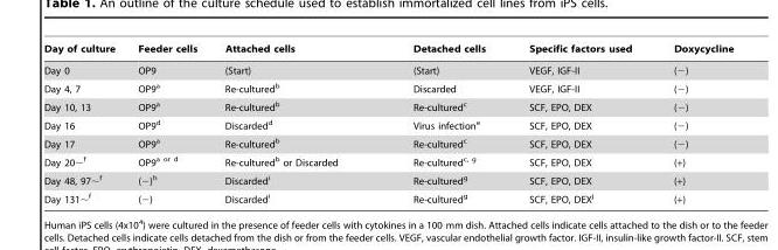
<table><thead><tr><td>Day of culture</td><td>Feeder cells</td><td>Attached cells</td><td>Detached cells</td><td>Specific factors used</td><td>Doxycycline</td></tr></thead><tbody><tr><td>Day 0</td><td>OP9</td><td>(Start)</td><td>(Start)</td><td>VEGF, IGF-II</td><td>(−)</td></tr><tr><td>Day 4, 7</td><td>OP9<sup>a</sup></td><td>Re-cultured<sup>b</sup></td><td>Discarded</td><td>VEGF, IGF-II</td><td>(−)</td></tr><tr><td>Day 10, 13</td><td>OP9<sup>a</sup></td><td>Re-cultured<sup>b</sup></td><td>Re-cultured<sup>c</sup></td><td>SCF, EPO, DEX</td><td>(−)</td></tr><tr><td>Day 16</td><td>OP9<sup>d</sup></td><td>Discarded<sup>d</sup></td><td>Virus infection<sup>e</sup></td><td>SCF, EPO, DEX</td><td>(−)</td></tr><tr><td>Day 17</td><td>OP9<sup>a</sup></td><td>Re-cultured<sup>b</sup></td><td>Re-cultured<sup>c</sup></td><td>SCF, EPO, DEX</td><td>(−)</td></tr><tr><td>Day 20∼<sup>f</sup></td><td>OP9a or d</td><td>Re-cultured<sup>b</sup> or Discarded</td><td>Re-culturedc, g</td><td>SCF, EPO, DEX</td><td>(+)</td></tr><tr><td>Day 48, 97∼<sup>f</sup></td><td>(−)<sup>h</sup></td><td>Discarded<sup>i</sup></td><td>Re-cultured<sup>g</sup></td><td>SCF, EPO, DEX</td><td>(+)</td></tr><tr><td>Day 131∼<sup>f</sup></td><td>(−)</td><td>Discarded<sup>i</sup></td><td>Re-cultured<sup>g</sup></td><td>SCF, EPO, DEX<sup>j</sup></td><td>(+)</td></tr></tbody></table>